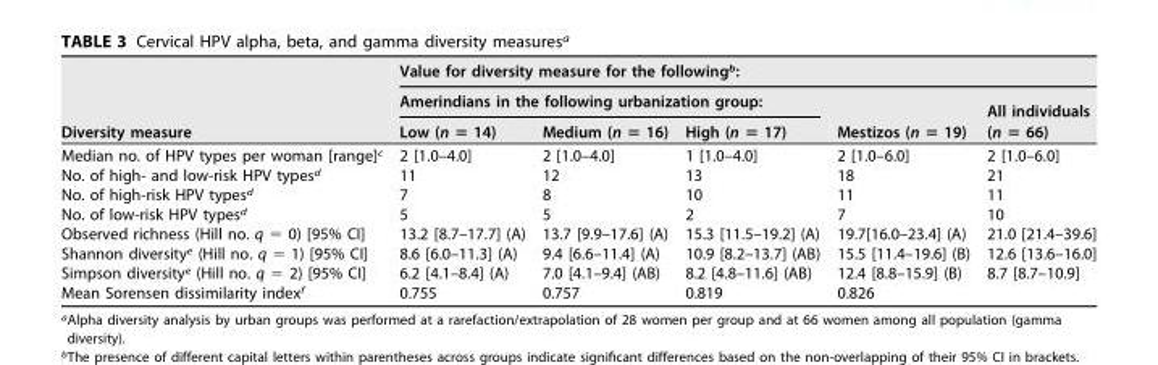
<table><thead><tr><td rowspan="3">Diversity measure</td><td colspan="5">Value for diversity measure for the following<sup>b</sup>:</td></tr><tr><td colspan="3">Amerindians in the following urbanization group:</td><td rowspan="2">Mestizos (n = 19)</td><td rowspan="2">All individuals (n = 66)</td></tr><tr><td>Low (n = 14)</td><td>Medium (n = 16)</td><td>High (n = 17)</td></tr></thead><tbody><tr><td>Median no. of HPV types per woman [range]<sup>c</sup></td><td>2 [1.0–4.0]</td><td>2 [1.0–4.0]</td><td>1 [1.0–4.0]</td><td>2 [1.0–6.0]</td><td>2 [1.0–6.0]</td></tr><tr><td>No. of high- and low-risk HPV types<sup>d</sup></td><td>11</td><td>12</td><td>13</td><td>18</td><td>21</td></tr><tr><td>No. of high-risk HPV types<sup>d</sup></td><td>7</td><td>8</td><td>10</td><td>11</td><td>11</td></tr><tr><td>No. of low-risk HPV types<sup>d</sup></td><td>5</td><td>5</td><td>2</td><td>7</td><td>10</td></tr><tr><td>Observed richness (Hill no. q = 0) [95% CI]</td><td>13.2 [8.7–17.7] (A)</td><td>13.7 [9.9–17.6] (A)</td><td>15.3 [11.5–19.2] (A)</td><td>19.7[16.0–23.4] (A)</td><td>21.0 [21.4–39.6]</td></tr><tr><td>Shannon diversity<sup>e</sup> (Hill no. q = 1) [95% CI]</td><td>8.6 [6.0–11.3] (A)</td><td>9.4 [6.6–11.4] (A)</td><td>10.9 [8.2–13.7] (AB)</td><td>15.5 [11.4–19.6] (B)</td><td>12.6 [13.6–16.0]</td></tr><tr><td>Simpson diversity<sup>e</sup> (Hill no. q = 2) [95% CI]</td><td>6.2 [4.1–8.4] (A)</td><td>7.0 [4.1–9.4] (AB)</td><td>8.2 [4.8–11.6] (AB)</td><td>12.4 [8.8–15.9] (B)</td><td>8.7 [8.7–10.9]</td></tr><tr><td>Mean Sorensen dissimilarity index<sup>f</sup></td><td>0.755</td><td>0.757</td><td>0.819</td><td>0.826</td><td></td></tr></tbody></table>